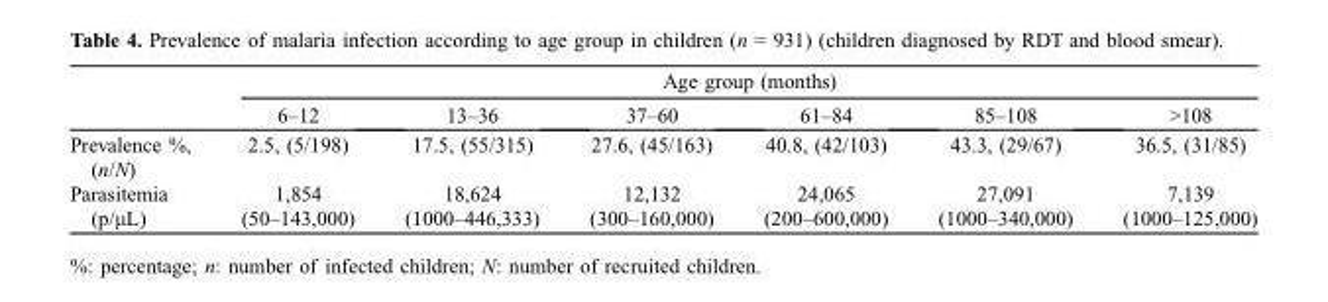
<table><thead><tr><td rowspan="2"></td><td colspan="6">Age group (months)</td></tr><tr><td>6–12</td><td>13–36</td><td>37–60</td><td>61–84</td><td>85–108</td><td>&gt;108</td></tr></thead><tbody><tr><td>Prevalence %, (n/N)</td><td>2.5, (5/198)</td><td>17.5, (55/315)</td><td>27.6, (45/163)</td><td>40.8, (42/103)</td><td>43.3, (29/67)</td><td>36.5, (31/85)</td></tr><tr><td>Parasitemia (p/μL)</td><td>1,854 (50–143,000)</td><td>18,624 (1000–446,333)</td><td>12,132 (300–160,000)</td><td>24,065 (200–600,000)</td><td>27,091 (1000–340,000)</td><td>7,139 (1000–125,000)</td></tr></tbody></table>